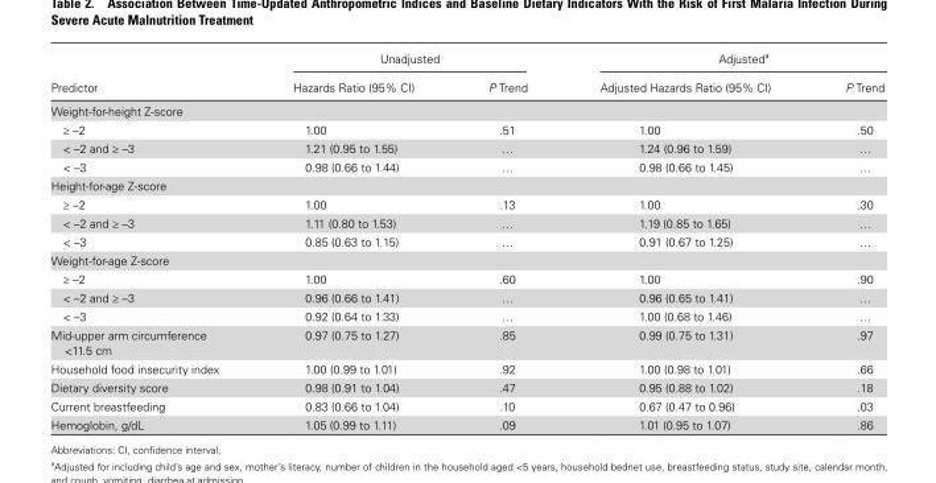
<table><thead><tr><td rowspan="2">Predictor</td><td colspan="2">Unadjusted</td><td colspan="2">Adjusted<sup>a</sup></td></tr><tr><td>Hazards Ratio (95% CI)</td><td>P Trend</td><td>Adjusted Hazards Ratio (95% CI)</td><td>P Trend</td></tr></thead><tbody><tr><td colspan="5">Weight-for-height Z-score</td></tr><tr><td>≥ –2</td><td>1.00</td><td>.51</td><td>1.00</td><td>.50</td></tr><tr><td>&lt; –2 and ≥ –3</td><td>1.21 (0.95 to 1.55)</td><td>…</td><td>1.24 (0.96 to 1.59)</td><td>…</td></tr><tr><td>&lt; –3</td><td>0.98 (0.66 to 1.44)</td><td>…</td><td>0.98 (0.66 to 1.45)</td><td>…</td></tr><tr><td colspan="5">Height-for-age Z-score</td></tr><tr><td>≥ –2</td><td>1.00</td><td>.13</td><td>1.00</td><td>.30</td></tr><tr><td>&lt; –2 and ≥ –3</td><td>1.11 (0.80 to 1.53)</td><td>…</td><td>1.19 (0.85 to 1.65)</td><td>…</td></tr><tr><td>&lt; –3</td><td>0.85 (0.63 to 1.15)</td><td>…</td><td>0.91 (0.67 to 1.25)</td><td>…</td></tr><tr><td colspan="5">Weight-for-age Z-score</td></tr><tr><td>≥ –2</td><td>1.00</td><td>.60</td><td>1.00</td><td>.90</td></tr><tr><td>&lt; –2 and ≥ –3</td><td>0.96 (0.66 to 1.41)</td><td>…</td><td>0.96 (0.65 to 1.41)</td><td>…</td></tr><tr><td>&lt; –3</td><td>0.92 (0.64 to 1.33)</td><td>…</td><td>1.00 (0.68 to 1.46)</td><td>…</td></tr><tr><td>Mid-upper arm circumference &lt;11.5 cm</td><td>0.97 (0.75 to 1.27)</td><td>.85</td><td>0.99 (0.75 to 1.31)</td><td>.97</td></tr><tr><td>Household food insecurity index</td><td>1.00 (0.99 to 1.01)</td><td>.92</td><td>1.00 (0.98 to 1.01)</td><td>.66</td></tr><tr><td>Dietary diversity score</td><td>0.98 (0.91 to 1.04)</td><td>.47</td><td>0.95 (0.88 to 1.02)</td><td>.18</td></tr><tr><td>Current breastfeeding</td><td>0.83 (0.66 to 1.04)</td><td>.10</td><td>0.67 (0.47 to 0.96)</td><td>.03</td></tr><tr><td>Hemoglobin, g/dL</td><td>1.05 (0.99 to 1.11)</td><td>.09</td><td>1.01 (0.95 to 1.07)</td><td>.86</td></tr></tbody></table>